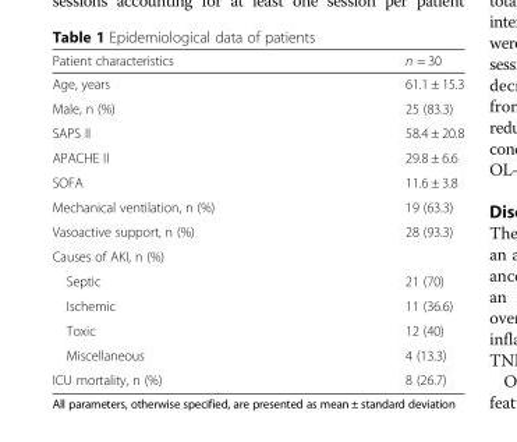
<table><thead><tr><td>Patient characteristics</td><td>n = 30</td></tr></thead><tbody><tr><td>Age, years</td><td>61.1 ± 15.3</td></tr><tr><td>Male, n (%)</td><td>25 (83.3)</td></tr><tr><td>SAPS II</td><td>58.4 ± 20.8</td></tr><tr><td>APACHE II</td><td>29.8 ± 6.6</td></tr><tr><td>SOFA</td><td>11.6 ± 3.8</td></tr><tr><td>Mechanical ventilation, n (%)</td><td>19 (63.3)</td></tr><tr><td>Vasoactive support, n (%)</td><td>28 (93.3)</td></tr><tr><td colspan="2">Causes of AKI, n (%)</td></tr><tr><td>Septic</td><td>21 (70)</td></tr><tr><td>Ischemic</td><td>11 (36.6)</td></tr><tr><td>Toxic</td><td>12 (40)</td></tr><tr><td>Miscellaneous</td><td>4 (13.3)</td></tr><tr><td>ICU mortality, n (%)</td><td>8 (26.7)</td></tr></tbody></table>